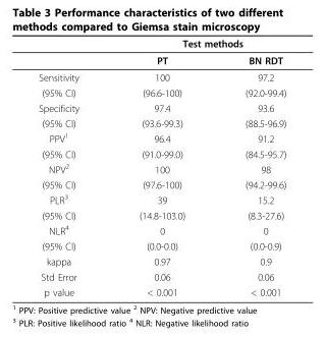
<table><thead><tr><td rowspan="2"></td><td colspan="2">Test methods</td></tr><tr><td>PT</td><td>BN RDT</td></tr></thead><tbody><tr><td>Sensitivity</td><td>100</td><td>97.2</td></tr><tr><td>(95% CI)</td><td>(96.6-100)</td><td>(92.0-99.4)</td></tr><tr><td>Specificity</td><td>97.4</td><td>93.6</td></tr><tr><td>(95% CI)</td><td>(93.6-99.3)</td><td>(88.5-96.9)</td></tr><tr><td>PPV<sup>1</sup></td><td>96.4</td><td>91.2</td></tr><tr><td>(95% CI)</td><td>(91.0-99.0)</td><td>(84.5-95.7)</td></tr><tr><td>NPV<sup>2</sup></td><td>100</td><td>98</td></tr><tr><td>(95% CI)</td><td>(97.6-100)</td><td>(94.2-99.6)</td></tr><tr><td>PLR<sup>3</sup></td><td>39</td><td>15.2</td></tr><tr><td>(95% CI)</td><td>(14.8-103.0)</td><td>(8.3-27.6)</td></tr><tr><td>NLR<sup>4</sup></td><td>0</td><td>0</td></tr><tr><td>(95% CI)</td><td>(0.0-0.0)</td><td>(0.0-0.9)</td></tr><tr><td>kappa</td><td>0.97</td><td>0.9</td></tr><tr><td>Std Error</td><td>0.06</td><td>0.06</td></tr><tr><td>p value</td><td>&lt; 0.001</td><td>&lt; 0.001</td></tr></tbody></table>